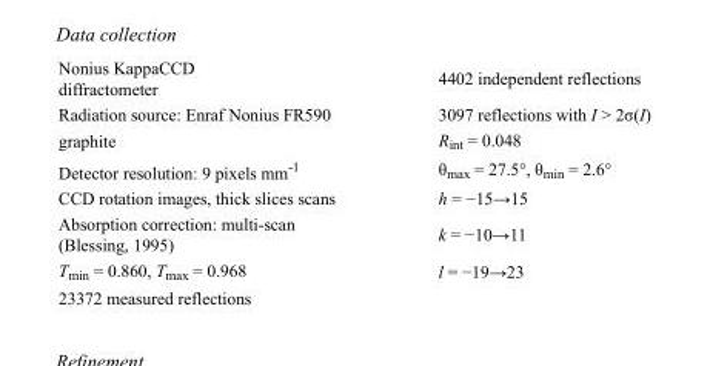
<table><tbody><tr><td>Nonius KappaCCD diffractometer</td><td>4402 independent reflections</td></tr><tr><td>Radiation source: Enraf Nonius FR590</td><td>3097 reflections with I &gt; 2σ(I)</td></tr><tr><td>graphite</td><td>R<sub>int</sub> = 0.048</td></tr><tr><td>Detector resolution: 9 pixels mm<sup>-1</sup></td><td>θ<sub>max</sub> = 27.5°, θ<sub>min</sub> = 2.6°</td></tr><tr><td>CCD rotation images, thick slices scans</td><td>h = −15→15</td></tr><tr><td>Absorption correction: multi-scan (Blessing, 1995)</td><td>k = −10→11</td></tr><tr><td>T<sub>min</sub> = 0.860, T<sub>max</sub> = 0.968</td><td>l = −19→23</td></tr><tr><td>23372 measured reflections</td><td></td></tr></tbody></table>